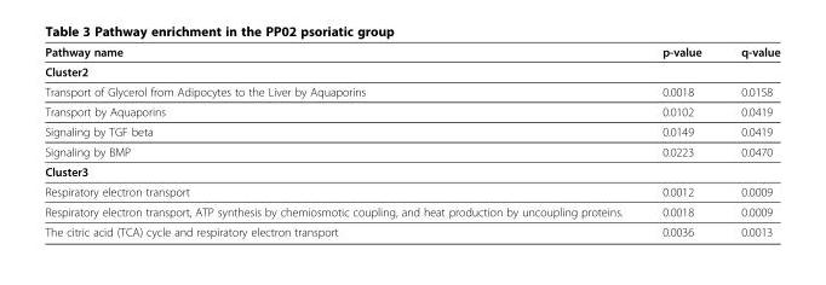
<table><thead><tr><td>Pathway name</td><td>p-value</td><td>q-value</td></tr></thead><tbody><tr><td colspan="3">Cluster2</td></tr><tr><td>Transport of Glycerol from Adipocytes to the Liver by Aquaporins</td><td>0.0018</td><td>0.0158</td></tr><tr><td>Transport by Aquaporins</td><td>0.0102</td><td>0.0419</td></tr><tr><td>Signaling by TGF beta</td><td>0.0149</td><td>0.0419</td></tr><tr><td>Signaling by BMP</td><td>0.0223</td><td>0.0470</td></tr><tr><td colspan="3">Cluster3</td></tr><tr><td>Respiratory electron transport</td><td>0.0012</td><td>0.0009</td></tr><tr><td>Respiratory electron transport, ATP synthesis by chemiosmotic coupling, and heat production by uncoupling proteins.</td><td>0.0018</td><td>0.0009</td></tr><tr><td>The citric acid (TCA) cycle and respiratory electron transport</td><td>0.0036</td><td>0.0013</td></tr></tbody></table>